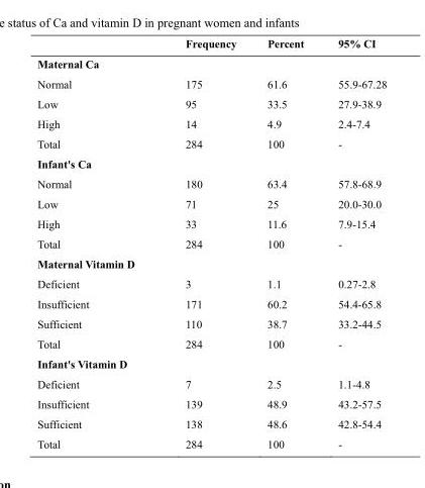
<table><thead><tr><td></td><td>Frequency</td><td>Percent</td><td>95% CI</td></tr></thead><tbody><tr><td colspan="4">Maternal Ca</td></tr><tr><td>Normal</td><td>175</td><td>61.6</td><td>55.9-67.28</td></tr><tr><td>Low</td><td>95</td><td>33.5</td><td>27.9-38.9</td></tr><tr><td>High</td><td>14</td><td>4.9</td><td>2.4-7.4</td></tr><tr><td>Total</td><td>284</td><td>100</td><td>-</td></tr><tr><td colspan="4">Infant&#x27;s Ca</td></tr><tr><td>Normal</td><td>180</td><td>63.4</td><td>57.8-68.9</td></tr><tr><td>Low</td><td>71</td><td>25</td><td>20.0-30.0</td></tr><tr><td>High</td><td>33</td><td>11.6</td><td>7.9-15.4</td></tr><tr><td>Total</td><td>284</td><td>100</td><td>-</td></tr><tr><td colspan="4">Maternal Vitamin D</td></tr><tr><td>Deficient</td><td>3</td><td>1.1</td><td>0.27-2.8</td></tr><tr><td>Insufficient</td><td>171</td><td>60.2</td><td>54.4-65.8</td></tr><tr><td>Sufficient</td><td>110</td><td>38.7</td><td>33.2-44.5</td></tr><tr><td>Total</td><td>284</td><td>100</td><td>-</td></tr><tr><td colspan="4">Infant&#x27;s Vitamin D</td></tr><tr><td>Deficient</td><td>7</td><td>2.5</td><td>1.1-4.8</td></tr><tr><td>Insufficient</td><td>139</td><td>48.9</td><td>43.2-57.5</td></tr><tr><td>Sufficient</td><td>138</td><td>48.6</td><td>42.8-54.4</td></tr><tr><td>Total</td><td>284</td><td>100</td><td>-</td></tr></tbody></table>